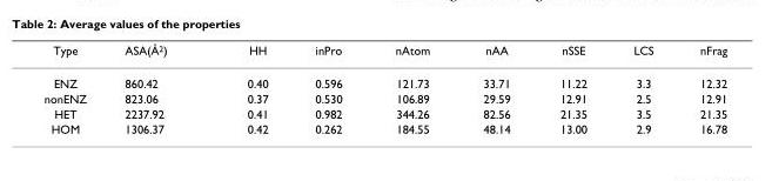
<table><thead><tr><td>Type</td><td>ASA(Å<sup>2</sup>)</td><td>HH</td><td>inPro</td><td>nAtom</td><td>nAA</td><td>nSSE</td><td>LCS</td><td>nFrag</td></tr></thead><tbody><tr><td>ENZ</td><td>860.42</td><td>0.40</td><td>0.596</td><td>121.73</td><td>33.71</td><td>11.22</td><td>3.3</td><td>12.32</td></tr><tr><td>nonENZ</td><td>823.06</td><td>0.37</td><td>0.530</td><td>106.89</td><td>29.59</td><td>12.91</td><td>2.5</td><td>12.91</td></tr><tr><td>HET</td><td>2237.92</td><td>0.41</td><td>0.982</td><td>344.26</td><td>82.56</td><td>21.35</td><td>3.5</td><td>21.35</td></tr><tr><td>HOM</td><td>1306.37</td><td>0.42</td><td>0.262</td><td>184.55</td><td>48.14</td><td>13.00</td><td>2.9</td><td>16.78</td></tr></tbody></table>